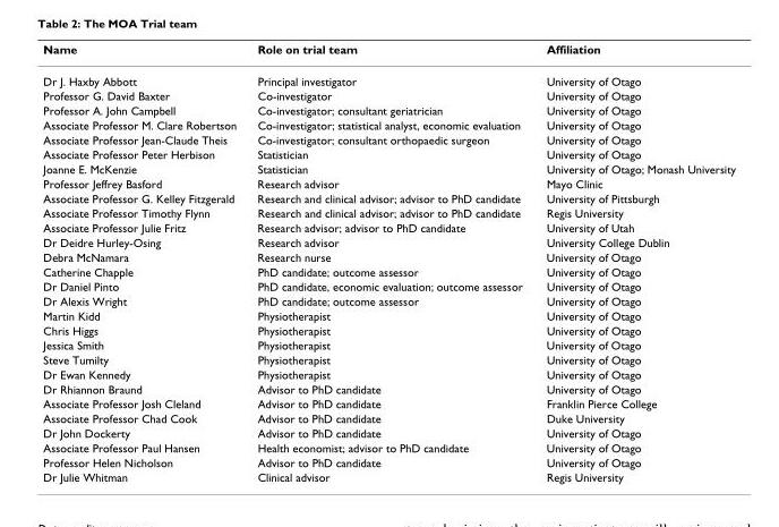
<table><thead><tr><td>Name</td><td>Role on trial team</td><td>Affiliation</td></tr></thead><tbody><tr><td>Dr J. Haxby Abbott</td><td>Principal investigator</td><td>University of Otago</td></tr><tr><td>Professor G. David Baxter</td><td>Co-investigator</td><td>University of Otago</td></tr><tr><td>Professor A. John Campbell</td><td>Co-investigator; consultant geriatrician</td><td>University of Otago</td></tr><tr><td>Associate Professor M. Clare Robertson</td><td>Co-investigator; statistical analyst, economic evaluation</td><td>University of Otago</td></tr><tr><td>Associate Professor Jean-Claude Theis</td><td>Co-investigator; consultant orthopaedic surgeon</td><td>University of Otago</td></tr><tr><td>Associate Professor Peter Herbison</td><td>Statistician</td><td>University of Otago</td></tr><tr><td>Joanne E. McKenzie</td><td>Statistician</td><td>University of Otago; Monash University</td></tr><tr><td>Professor Jeffrey Basford</td><td>Research advisor</td><td>Mayo Clinic</td></tr><tr><td>Associate Professor G. Kelley Fitzgerald</td><td>Research and clinical advisor; advisor to PhD candidate</td><td>University of Pittsburgh</td></tr><tr><td>Associate Professor Timothy Flynn</td><td>Research and clinical advisor; advisor to PhD candidate</td><td>Regis University</td></tr><tr><td>Associate Professor Julie Fritz</td><td>Research advisor; advisor to PhD candidate</td><td>University of Utah</td></tr><tr><td>Dr Deidre Hurley-Osing</td><td>Research advisor</td><td>University College Dublin</td></tr><tr><td>Debra McNamara</td><td>Research nurse</td><td>University of Otago</td></tr><tr><td>Catherine Chapple</td><td>PhD candidate; outcome assessor</td><td>University of Otago</td></tr><tr><td>Dr Daniel Pinto</td><td>PhD candidate, economic evaluation; outcome assessor</td><td>University of Otago</td></tr><tr><td>Dr Alexis Wright</td><td>PhD candidate; outcome assessor</td><td>University of Otago</td></tr><tr><td>Martin Kidd</td><td>Physiotherapist</td><td>University of Otago</td></tr><tr><td>Chris Higgs</td><td>Physiotherapist</td><td>University of Otago</td></tr><tr><td>Jessica Smith</td><td>Physiotherapist</td><td>University of Otago</td></tr><tr><td>Steve Tumilty</td><td>Physiotherapist</td><td>University of Otago</td></tr><tr><td>Dr Ewan Kennedy</td><td>Physiotherapist</td><td>University of Otago</td></tr><tr><td>Dr Rhiannon Braund</td><td>Advisor to PhD candidate</td><td>University of Otago</td></tr><tr><td>Associate Professor Josh Cleland</td><td>Advisor to PhD candidate</td><td>Franklin Pierce College</td></tr><tr><td>Associate Professor Chad Cook</td><td>Advisor to PhD candidate</td><td>Duke University</td></tr><tr><td>Dr John Dockerty</td><td>Advisor to PhD candidate</td><td>University of Otago</td></tr><tr><td>Associate Professor Paul Hansen</td><td>Health economist; advisor to PhD candidate</td><td>University of Otago</td></tr><tr><td>Professor Helen Nicholson</td><td>Advisor to PhD candidate</td><td>University of Otago</td></tr><tr><td>Dr Julie Whitman</td><td>Clinical advisor</td><td>Regis University</td></tr></tbody></table>